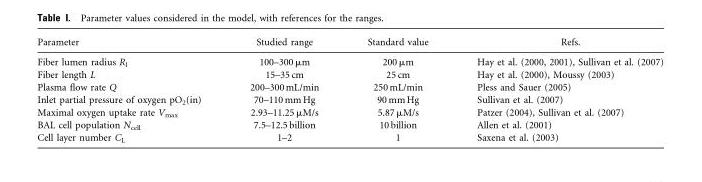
<table><thead><tr><td>Parameter</td><td>Studied range</td><td>Standard value</td><td>Refs.</td></tr></thead><tbody><tr><td>Fiber lumen radius R<sub>l</sub></td><td>100–300 µm</td><td>200 µm</td><td>Hay et al. (2000, 2001), Sullivan et al. (2007)</td></tr><tr><td>Fiber length L</td><td>15–35 cm</td><td>25 cm</td><td>Hay et al. (2000), Moussy (2003)</td></tr><tr><td>Plasma flow rate Q</td><td>200–300 mL/min</td><td>250 mL/min</td><td>Pless and Sauer (2005)</td></tr><tr><td>Inlet partial pressure of oxygen pO<sub>2</sub>(in)</td><td>70–110 mm Hg</td><td>90 mm Hg</td><td>Sullivan et al. (2007)</td></tr><tr><td>Maximal oxygen uptake rate V<sub>max</sub></td><td>2.93–11.25 µM/s</td><td>5.87 µM/s</td><td>Patzer (2004), Sullivan et al. (2007)</td></tr><tr><td>BAL cell population N<sub>cell</sub></td><td>7.5–12.5 billion</td><td>10 billion</td><td>Allen et al. (2001)</td></tr><tr><td>Cell layer number C<sub>L</sub></td><td>1–2</td><td>1</td><td>Saxena et al. (2003)</td></tr></tbody></table>